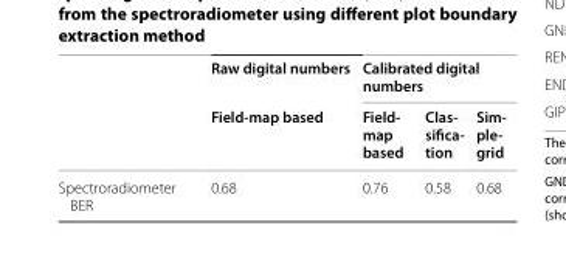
<table><thead><tr><td rowspan="2"></td><td rowspan="2">Raw digital numbers Field‑map based</td><td colspan="3">Calibrated digital numbers</td></tr><tr><td>Field‑ map based</td><td>Clas‑ sifica‑ tion</td><td>Sim‑ ple‑ grid</td></tr></thead><tbody><tr><td>Spectroradiometer BER</td><td>0.68</td><td>0.76</td><td>0.58</td><td>0.68</td></tr></tbody></table>